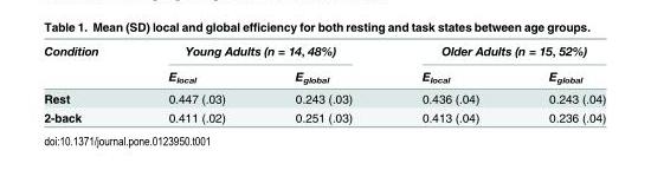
<table><thead><tr><td rowspan="2">Condition</td><td colspan="2">Young Adults (n = 14, 48%)</td><td colspan="2">Older Adults (n = 15, 52%)</td></tr><tr><td>E<sub>local</sub></td><td>E<sub>global</sub></td><td>E<sub>local</sub></td><td>E<sub>global</sub></td></tr></thead><tbody><tr><td>Rest</td><td>0.447 (.03)</td><td>0.243 (.03)</td><td>0.436 (.04)</td><td>0.243 (.04)</td></tr><tr><td>2-back</td><td>0.411 (.02)</td><td>0.251 (.03)</td><td>0.413 (.04)</td><td>0.236 (.04)</td></tr></tbody></table>